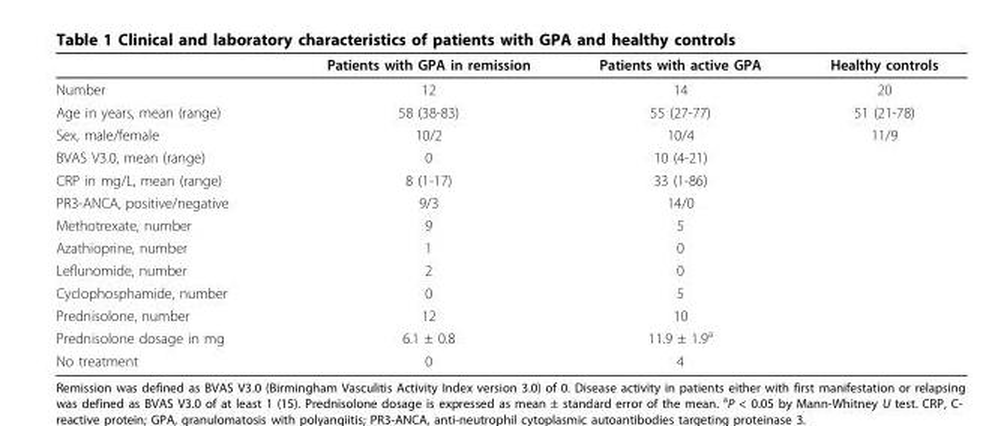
<table><thead><tr><td></td><td>Patients with GPA in remission</td><td>Patients with active GPA</td><td>Healthy controls</td></tr></thead><tbody><tr><td>Number</td><td>12</td><td>14</td><td>20</td></tr><tr><td>Age in years, mean (range)</td><td>58 (38-83)</td><td>55 (27-77)</td><td>51 (21-78)</td></tr><tr><td>Sex, male/female</td><td>10/2</td><td>10/4</td><td>11/9</td></tr><tr><td>BVAS V3.0, mean (range)</td><td>0</td><td>10 (4-21)</td><td></td></tr><tr><td>CRP in mg/L, mean (range)</td><td>8 (1-17)</td><td>33 (1-86)</td><td></td></tr><tr><td>PR3-ANCA, positive/negative</td><td>9/3</td><td>14/0</td><td></td></tr><tr><td>Methotrexate, number</td><td>9</td><td>5</td><td></td></tr><tr><td>Azathioprine, number</td><td>1</td><td>0</td><td></td></tr><tr><td>Leflunomide, number</td><td>2</td><td>0</td><td></td></tr><tr><td>Cyclophosphamide, number</td><td>0</td><td>5</td><td></td></tr><tr><td>Prednisolone, number</td><td>12</td><td>10</td><td></td></tr><tr><td>Prednisolone dosage in mg</td><td>6.1 ± 0.8</td><td>11.9 ± 1.9<sup>a</sup></td><td></td></tr><tr><td>No treatment</td><td>0</td><td>4</td><td></td></tr></tbody></table>